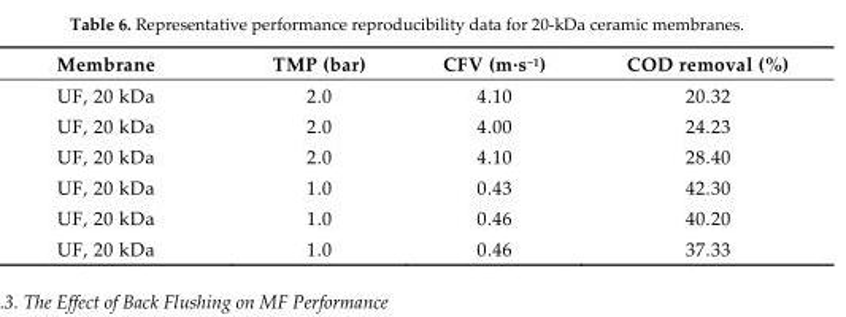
<table><thead><tr><td>Membrane</td><td>TMP (bar)</td><td>CFV (m·s<sup>−1</sup>)</td><td>COD removal (%)</td></tr></thead><tbody><tr><td>UF, 20 kDa</td><td>2.0</td><td>4.10</td><td>20.32</td></tr><tr><td>UF, 20 kDa</td><td>2.0</td><td>4.00</td><td>24.23</td></tr><tr><td>UF, 20 kDa</td><td>2.0</td><td>4.10</td><td>28.40</td></tr><tr><td>UF, 20 kDa</td><td>1.0</td><td>0.43</td><td>42.30</td></tr><tr><td>UF, 20 kDa</td><td>1.0</td><td>0.46</td><td>40.20</td></tr><tr><td>UF, 20 kDa</td><td>1.0</td><td>0.46</td><td>37.33</td></tr></tbody></table>